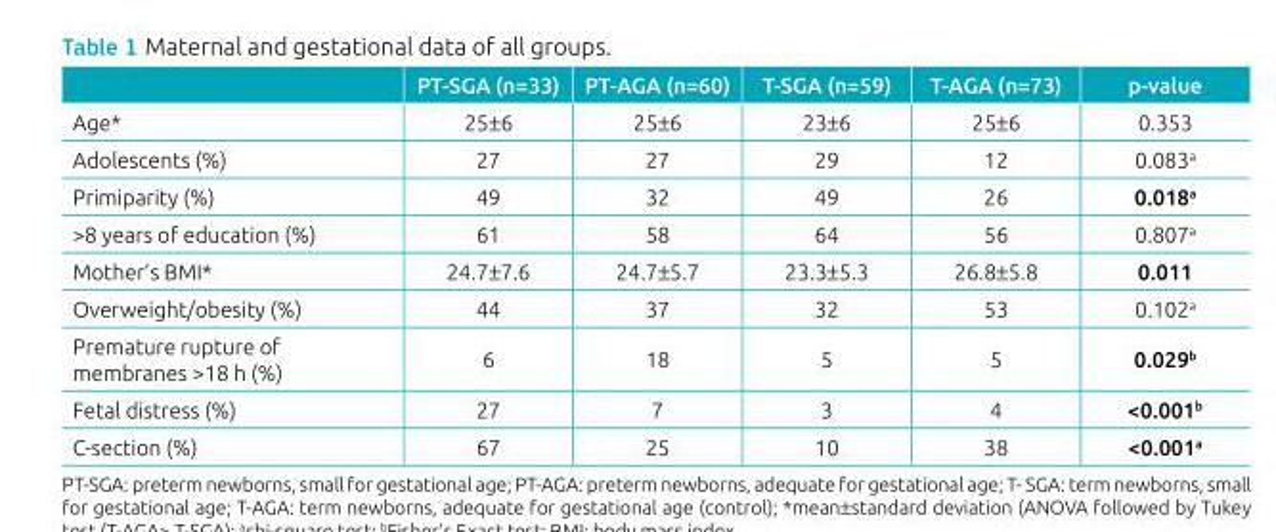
<table><thead><tr><td></td><td>PT‑SGA (n=33)</td><td>PT‑AGA (n=60)</td><td>T‑SGA (n=59)</td><td>T‑AGA (n=73)</td><td>p‑value</td></tr></thead><tbody><tr><td>Age*</td><td>25±6</td><td>25±6</td><td>23±6</td><td>25±6</td><td>0.353</td></tr><tr><td>Adolescents (%)</td><td>27</td><td>27</td><td>29</td><td>12</td><td>0.083<sup>a</sup></td></tr><tr><td>Primiparity (%)</td><td>49</td><td>32</td><td>49</td><td>26</td><td>0.018<sup>a</sup></td></tr><tr><td>&gt;8 years of education (%)</td><td>61</td><td>58</td><td>64</td><td>56</td><td>0.807<sup>a</sup></td></tr><tr><td>Mother’s BMI*</td><td>24.7±7.6</td><td>24.7±5.7</td><td>23.3±5.3</td><td>26.8±5.8</td><td>0.011</td></tr><tr><td>Overweight/obesity (%)</td><td>44</td><td>37</td><td>32</td><td>53</td><td>0.102<sup>a</sup></td></tr><tr><td>Premature rupture of membranes &gt;18 h (%)</td><td>6</td><td>18</td><td>5</td><td>5</td><td>0.029<sup>b</sup></td></tr><tr><td>Fetal distress (%)</td><td>27</td><td>7</td><td>3</td><td>4</td><td>&lt;0.001<sup>b</sup></td></tr><tr><td>C‑section (%)</td><td>67</td><td>25</td><td>10</td><td>38</td><td>&lt;0.001<sup>a</sup></td></tr></tbody></table>